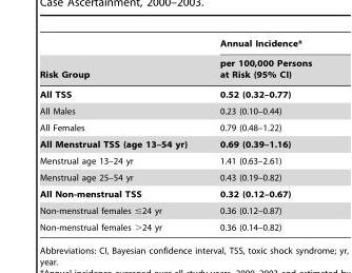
<table><thead><tr><td rowspan="2">Risk Group</td><td rowspan="2">Annual Incidence* per 100,000 Persons at Risk (95% CI)</td></tr><tr></tr></thead><tbody><tr><td>All TSS</td><td>0.52 (0.32–0.77)</td></tr><tr><td>All Males</td><td>0.23 (0.10–0.44)</td></tr><tr><td>All Females</td><td>0.79 (0.48–1.22)</td></tr><tr><td>All Menstrual TSS (age 13–54 yr)</td><td>0.69 (0.39–1.16)</td></tr><tr><td>Menstrual age 13–24 yr</td><td>1.41 (0.63–2.61)</td></tr><tr><td>Menstrual age 25–54 yr</td><td>0.43 (0.19–0.82)</td></tr><tr><td>All Non-menstrual TSS</td><td>0.32 (0.12–0.67)</td></tr><tr><td>Non-menstrual females ≤24 yr</td><td>0.36 (0.12–0.87)</td></tr><tr><td>Non-menstrual females &gt;24 yr</td><td>0.36 (0.14–0.82)</td></tr></tbody></table>